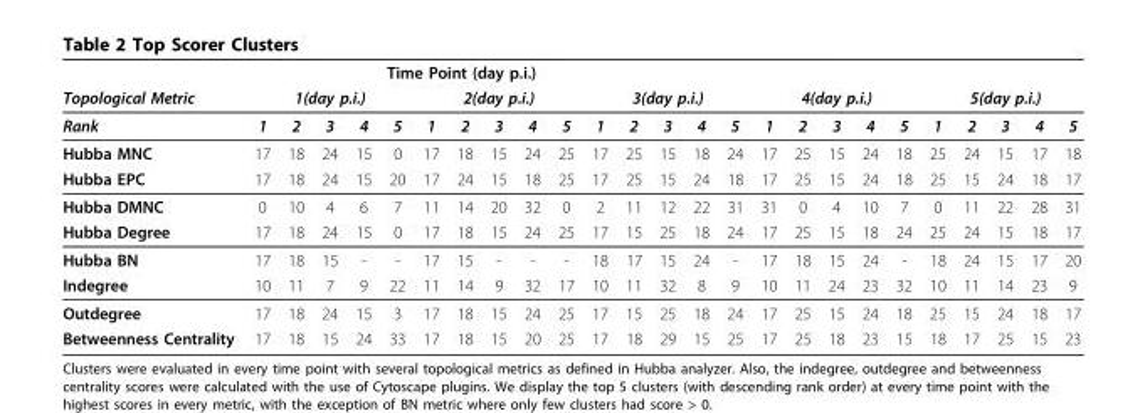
<table><thead><tr><td rowspan="3">Topological Metric Rank</td><td></td><td></td><td></td><td></td><td colspan="21">Time Point (day p.i.)</td></tr><tr><td colspan="5">1(day p.i.)</td><td colspan="5">2(day p.i.)</td><td colspan="5">3(day p.i.)</td><td colspan="5">4(day p.i.)</td><td colspan="5">5(day p.i.)</td></tr><tr><td>1</td><td>2</td><td>3</td><td>4</td><td>5</td><td>1</td><td>2</td><td>3</td><td>4</td><td>5</td><td>1</td><td>2</td><td>3</td><td>4</td><td>5</td><td>1</td><td>2</td><td>3</td><td>4</td><td>5</td><td>1</td><td>2</td><td>3</td><td>4</td><td>5</td></tr></thead><tbody><tr><td>Hubba MNC</td><td>17</td><td>18</td><td>24</td><td>15</td><td>0</td><td>17</td><td>18</td><td>15</td><td>24</td><td>25</td><td>17</td><td>25</td><td>15</td><td>18</td><td>24</td><td>17</td><td>25</td><td>15</td><td>24</td><td>18</td><td>25</td><td>24</td><td>15</td><td>17</td><td>18</td></tr><tr><td>Hubba EPC</td><td>17</td><td>18</td><td>24</td><td>15</td><td>20</td><td>17</td><td>24</td><td>15</td><td>18</td><td>25</td><td>17</td><td>25</td><td>15</td><td>24</td><td>18</td><td>17</td><td>25</td><td>15</td><td>24</td><td>18</td><td>25</td><td>15</td><td>24</td><td>18</td><td>17</td></tr><tr><td>Hubba DMNC</td><td>0</td><td>10</td><td>4</td><td>6</td><td>7</td><td>11</td><td>14</td><td>20</td><td>32</td><td>0</td><td>2</td><td>11</td><td>12</td><td>22</td><td>31</td><td>31</td><td>0</td><td>4</td><td>10</td><td>7</td><td>0</td><td>11</td><td>22</td><td>28</td><td>31</td></tr><tr><td>Hubba Degree</td><td>17</td><td>18</td><td>24</td><td>15</td><td>0</td><td>17</td><td>18</td><td>15</td><td>24</td><td>25</td><td>17</td><td>15</td><td>25</td><td>18</td><td>24</td><td>17</td><td>25</td><td>15</td><td>18</td><td>24</td><td>25</td><td>24</td><td>15</td><td>18</td><td>17</td></tr><tr><td>Hubba BN</td><td>17</td><td>18</td><td>15</td><td>-</td><td>-</td><td>17</td><td>15</td><td>-</td><td>-</td><td>-</td><td>18</td><td>17</td><td>15</td><td>24</td><td>-</td><td>17</td><td>18</td><td>15</td><td>24</td><td>-</td><td>18</td><td>24</td><td>15</td><td>17</td><td>20</td></tr><tr><td>Indegree</td><td>10</td><td>11</td><td>7</td><td>9</td><td>22</td><td>11</td><td>14</td><td>9</td><td>32</td><td>17</td><td>10</td><td>11</td><td>32</td><td>8</td><td>9</td><td>10</td><td>11</td><td>24</td><td>23</td><td>32</td><td>10</td><td>11</td><td>14</td><td>23</td><td>9</td></tr><tr><td>Outdegree</td><td>17</td><td>18</td><td>24</td><td>15</td><td>3</td><td>17</td><td>18</td><td>15</td><td>24</td><td>25</td><td>17</td><td>15</td><td>25</td><td>18</td><td>24</td><td>17</td><td>25</td><td>15</td><td>24</td><td>18</td><td>25</td><td>15</td><td>24</td><td>18</td><td>17</td></tr><tr><td>Betweenness Centrality</td><td>17</td><td>18</td><td>15</td><td>24</td><td>33</td><td>17</td><td>18</td><td>15</td><td>20</td><td>25</td><td>17</td><td>18</td><td>29</td><td>15</td><td>25</td><td>17</td><td>25</td><td>18</td><td>23</td><td>15</td><td>18</td><td>17</td><td>25</td><td>15</td><td>23</td></tr></tbody></table>